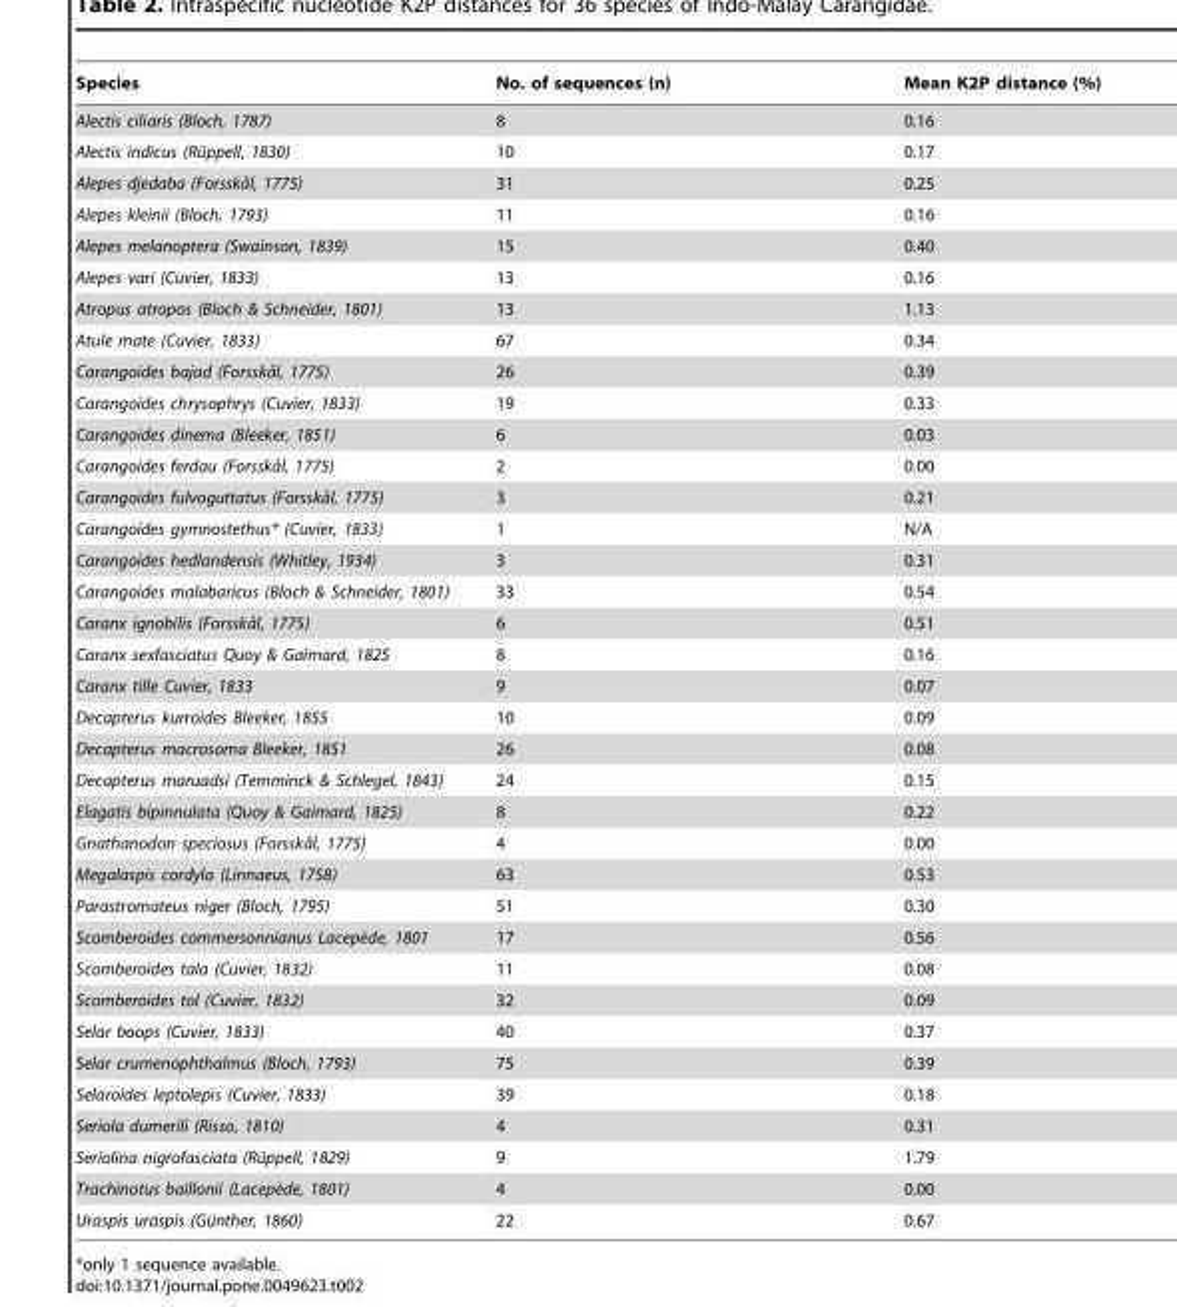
<table><thead><tr><td>Species</td><td>No. of sequences (n)</td><td>Mean K2P distance (%)</td></tr></thead><tbody><tr><td>Alectis ciliaris (Bloch, 1787)</td><td>8</td><td>0.16</td></tr><tr><td>Alectis indicus (Ru¨ppell, 1830)</td><td>10</td><td>0.17</td></tr><tr><td>Alepes djedaba (Forsska˚l, 1775)</td><td>31</td><td>0.25</td></tr><tr><td>Alepes kleinii (Bloch, 1793)</td><td>11</td><td>0.16</td></tr><tr><td>Alepes melanoptera (Swainson, 1839)</td><td>15</td><td>0.40</td></tr><tr><td>Alepes vari (Cuvier, 1833)</td><td>13</td><td>0.16</td></tr><tr><td>Atropus atropos (Bloch &amp; Schneider, 1801)</td><td>13</td><td>1.13</td></tr><tr><td>Atule mate (Cuvier, 1833)</td><td>67</td><td>0.34</td></tr><tr><td>Carangoides bajad (Forsska˚l, 1775)</td><td>26</td><td>0.39</td></tr><tr><td>Carangoides chrysophrys (Cuvier, 1833)</td><td>19</td><td>0.33</td></tr><tr><td>Carangoides dinema (Bleeker, 1851)</td><td>6</td><td>0.03</td></tr><tr><td>Carangoides ferdau (Forsska˚l, 1775)</td><td>2</td><td>0.00</td></tr><tr><td>Carangoides fulvoguttatus (Forsska˚l, 1775)</td><td>3</td><td>0.21</td></tr><tr><td>Carangoides gymnostethus* (Cuvier, 1833)</td><td>1</td><td>N/A</td></tr><tr><td>Carangoides hedlandensis (Whitley, 1934)</td><td>3</td><td>0.31</td></tr><tr><td>Carangoides malabaricus (Bloch &amp; Schneider, 1801)</td><td>33</td><td>0.54</td></tr><tr><td>Caranx ignobilis (Forsska˚l, 1775)</td><td>6</td><td>0.51</td></tr><tr><td>Caranx sexfasciatus Quoy &amp; Gaimard, 1825</td><td>8</td><td>0.16</td></tr><tr><td>Caranx tille Cuvier, 1833</td><td>9</td><td>0.07</td></tr><tr><td>Decapterus kurroides Bleeker, 1855</td><td>10</td><td>0.09</td></tr><tr><td>Decapterus macrosoma Bleeker, 1851</td><td>26</td><td>0.08</td></tr><tr><td>Decapterus maruadsi (Temminck &amp; Schlegel, 1843)</td><td>24</td><td>0.15</td></tr><tr><td>Elagatis bipinnulata (Quoy &amp; Gaimard, 1825)</td><td>8</td><td>0.22</td></tr><tr><td>Gnathanodon speciosus (Forsska˚l, 1775)</td><td>4</td><td>0.00</td></tr><tr><td>Megalaspis cordyla (Linnaeus, 1758)</td><td>63</td><td>0.53</td></tr><tr><td>Parastromateus niger (Bloch, 1795)</td><td>51</td><td>0.30</td></tr><tr><td>Scomberoides commersonnianus Lacepe`de, 1801</td><td>17</td><td>0.56</td></tr><tr><td>Scomberoides tala (Cuvier, 1832)</td><td>11</td><td>0.08</td></tr><tr><td>Scomberoides tol (Cuvier, 1832)</td><td>32</td><td>0.09</td></tr><tr><td>Selar boops (Cuvier, 1833)</td><td>40</td><td>0.37</td></tr><tr><td>Selar crumenophthalmus (Bloch, 1793)</td><td>75</td><td>0.39</td></tr><tr><td>Selaroides leptolepis (Cuvier, 1833)</td><td>39</td><td>0.18</td></tr><tr><td>Seriola dumerili (Risso, 1810)</td><td>4</td><td>0.31</td></tr><tr><td>Seriolina nigrofasciata (Ru¨ppell, 1829)</td><td>9</td><td>1.79</td></tr><tr><td>Trachinotus baillonii (Lacepe`de, 1801)</td><td>4</td><td>0.00</td></tr><tr><td>Uraspis uraspis (Gu¨nther, 1860)</td><td>22</td><td>0.67</td></tr></tbody></table>